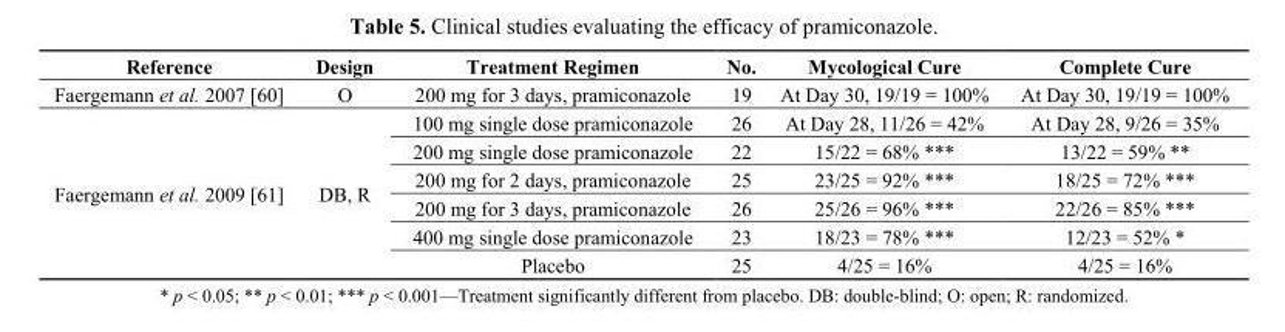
<table><thead><tr><td>Reference</td><td>Design</td><td>Treatment Regimen</td><td>No.</td><td>Mycological Cure</td><td>Complete Cure</td></tr></thead><tbody><tr><td>Faergemann et al. 2007 [60]</td><td>O</td><td>200 mg for 3 days, pramiconazole</td><td>19</td><td>At Day 30, 19/19 = 100%</td><td>At Day 30, 19/19 = 100%</td></tr><tr><td rowspan="6">Faergemann et al. 2009 [61]</td><td rowspan="6">DB, R</td><td>100 mg single dose pramiconazole</td><td>26</td><td>At Day 28, 11/26 = 42%</td><td>At Day 28, 9/26 = 35%</td></tr><tr><td>200 mg single dose pramiconazole</td><td>22</td><td>15/22 = 68% ***</td><td>13/22 = 59% **</td></tr><tr><td>200 mg for 2 days, pramiconazole</td><td>25</td><td>23/25 = 92% ***</td><td>18/25 = 72% ***</td></tr><tr><td>200 mg for 3 days, pramiconazole</td><td>26</td><td>25/26 = 96% ***</td><td>22/26 = 85% ***</td></tr><tr><td>400 mg single dose pramiconazole</td><td>23</td><td>18/23 = 78% ***</td><td>12/23 = 52% *</td></tr><tr><td>Placebo</td><td>25</td><td>4/25 = 16%</td><td>4/25 = 16%</td></tr></tbody></table>